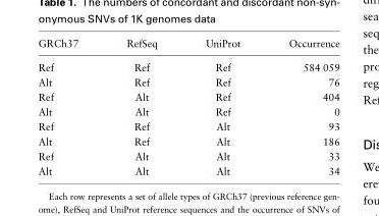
<table><thead><tr><td>GRCh37</td><td>RefSeq</td><td>UniProt</td><td>Occurrence</td></tr></thead><tbody><tr><td>Ref</td><td>Ref</td><td>Ref</td><td>584 059</td></tr><tr><td>Alt</td><td>Ref</td><td>Ref</td><td>76</td></tr><tr><td>Ref</td><td>Alt</td><td>Ref</td><td>404</td></tr><tr><td>Alt</td><td>Alt</td><td>Ref</td><td>0</td></tr><tr><td>Ref</td><td>Ref</td><td>Alt</td><td>93</td></tr><tr><td>Alt</td><td>Ref</td><td>Alt</td><td>186</td></tr><tr><td>Ref</td><td>Alt</td><td>Alt</td><td>33</td></tr><tr><td>Alt</td><td>Alt</td><td>Alt</td><td>34</td></tr></tbody></table>